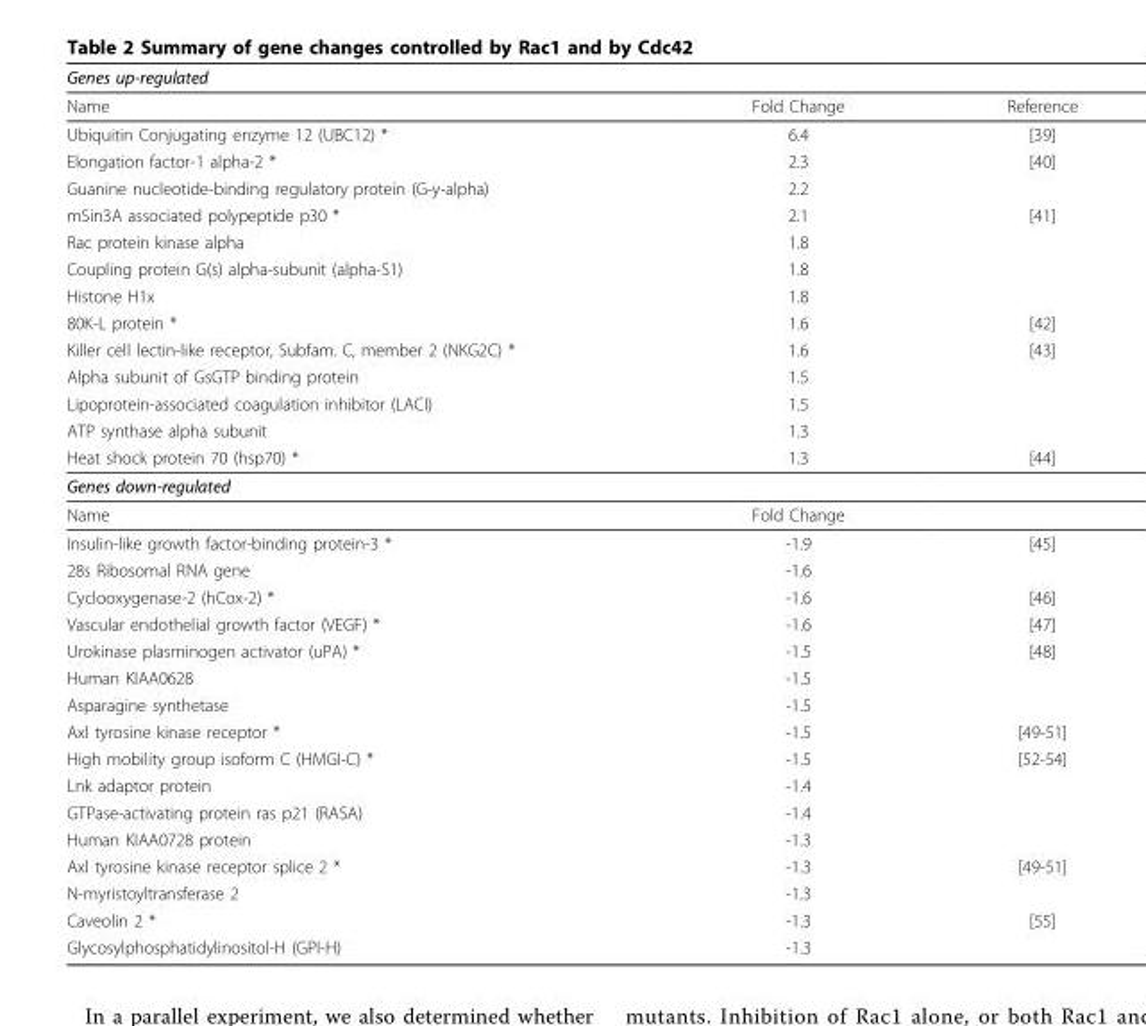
<table><thead><tr><td>Genes up-regulated</td><td></td><td></td></tr></thead><tbody><tr><td>Name</td><td>Fold Change</td><td>Reference</td></tr><tr><td>Ubiquitin Conjugating enzyme 12 (UBC12) *</td><td>6.4</td><td>[39]</td></tr><tr><td>Elongation factor-1 alpha-2 *</td><td>2.3</td><td>[40]</td></tr><tr><td>Guanine nucleotide-binding regulatory protein (G-y-alpha)</td><td>2.2</td><td></td></tr><tr><td>mSin3A associated polypeptide p30 *</td><td>2.1</td><td>[41]</td></tr><tr><td>Rac protein kinase alpha</td><td>1.8</td><td></td></tr><tr><td>Coupling protein G(s) alpha-subunit (alpha-S1)</td><td>1.8</td><td></td></tr><tr><td>Histone H1x</td><td>1.8</td><td></td></tr><tr><td>80K-L protein *</td><td>1.6</td><td>[42]</td></tr><tr><td>Killer cell lectin-like receptor, Subfam. C, member 2 (NKG2C) *</td><td>1.6</td><td>[43]</td></tr><tr><td>Alpha subunit of GsGTP binding protein</td><td>1.5</td><td></td></tr><tr><td>Lipoprotein-associated coagulation inhibitor (LACI)</td><td>1.5</td><td></td></tr><tr><td>ATP synthase alpha subunit</td><td>1.3</td><td></td></tr><tr><td>Heat shock protein 70 (hsp70) *</td><td>1.3</td><td>[44]</td></tr><tr><td colspan="3">Genes down-regulated</td></tr><tr><td>Name</td><td>Fold Change</td><td></td></tr><tr><td>Insulin-like growth factor-binding protein-3 *</td><td>-1.9</td><td>[45]</td></tr><tr><td>28s Ribosomal RNA gene</td><td>-1.6</td><td></td></tr><tr><td>Cyclooxygenase-2 (hCox-2) *</td><td>-1.6</td><td>[46]</td></tr><tr><td>Vascular endothelial growth factor (VEGF) *</td><td>-1.6</td><td>[47]</td></tr><tr><td>Urokinase plasminogen activator (uPA) *</td><td>-1.5</td><td>[48]</td></tr><tr><td>Human KIAA0628</td><td>-1.5</td><td></td></tr><tr><td>Asparagine synthetase</td><td>-1.5</td><td></td></tr><tr><td>Axl tyrosine kinase receptor *</td><td>-1.5</td><td>[49-51]</td></tr><tr><td>High mobility group isoform C (HMGI-C) *</td><td>-1.5</td><td>[52-54]</td></tr><tr><td>Lnk adaptor protein</td><td>-1.4</td><td></td></tr><tr><td>GTPase-activating protein ras p21 (RASA)</td><td>-1.4</td><td></td></tr><tr><td>Human KIAA0728 protein</td><td>-1.3</td><td></td></tr><tr><td>Axl tyrosine kinase receptor splice 2 *</td><td>-1.3</td><td>[49-51]</td></tr><tr><td>N-myristoyltransferase 2</td><td>-1.3</td><td></td></tr><tr><td>Caveolin 2 *</td><td>-1.3</td><td>[55]</td></tr><tr><td>Glycosylphosphatidylinositol-H (GPI-H)</td><td>-1.3</td><td></td></tr></tbody></table>